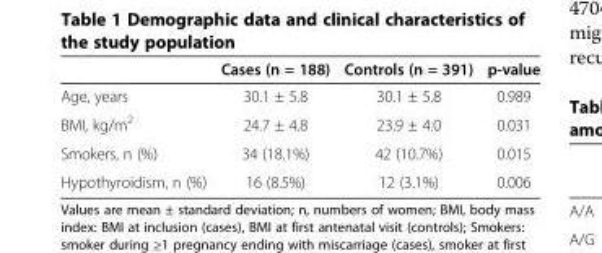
<table><thead><tr><td></td><td>Cases (n = 188)</td><td>Controls (n = 391)</td><td>p-value</td></tr></thead><tbody><tr><td>Age, years</td><td>30.1 ± 5.8</td><td>30.1 ± 5.8</td><td>0.989</td></tr><tr><td>BMI, kg/m<sup>2</sup></td><td>24.7 ± 4.8</td><td>23.9 ± 4.0</td><td>0.031</td></tr><tr><td>Smokers, n (%)</td><td>34 (18.1%)</td><td>42 (10.7%)</td><td>0.015</td></tr><tr><td>Hypothyroidism, n (%)</td><td>16 (8.5%)</td><td>12 (3.1%)</td><td>0.006</td></tr></tbody></table>